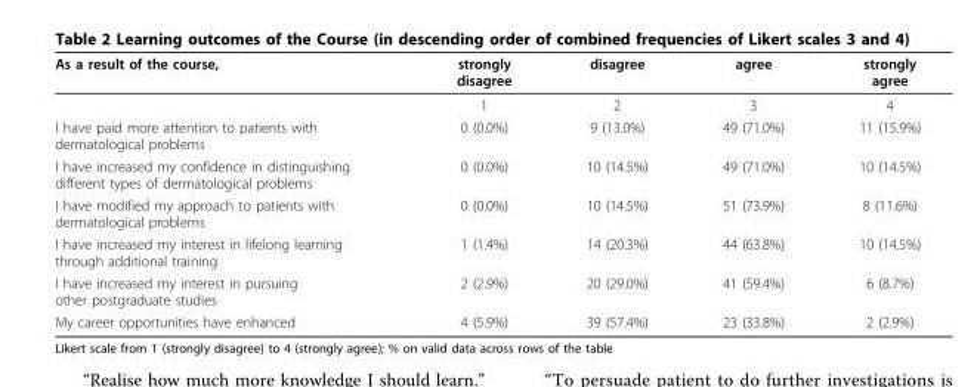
<table><thead><tr><td>As a result of the course,</td><td>strongly disagree</td><td>disagree</td><td>agree</td><td>strongly agree</td></tr></thead><tbody><tr><td></td><td>1</td><td>2</td><td>3</td><td>4</td></tr><tr><td>I have paid more attention to patients with dermatological problems</td><td>0 (0.0%)</td><td>9 (13.0%)</td><td>49 (71.0%)</td><td>11 (15.9%)</td></tr><tr><td>I have increased my confidence in distinguishing different types of dermatological problems</td><td>0 (0.0%)</td><td>10 (14.5%)</td><td>49 (71.0%)</td><td>10 (14.5%)</td></tr><tr><td>I have modified my approach to patients with dermatological problems</td><td>0 (0.0%)</td><td>10 (14.5%)</td><td>51 (73.9%)</td><td>8 (11.6%)</td></tr><tr><td>I have increased my interest in lifelong learning through additional training</td><td>1 (1.4%)</td><td>14 (20.3%)</td><td>44 (63.8%)</td><td>10 (14.5%)</td></tr><tr><td>I have increased my interest in pursuing other postgraduate studies</td><td>2 (2.9%)</td><td>20 (29.0%)</td><td>41 (59.4%)</td><td>6 (8.7%)</td></tr><tr><td>My career opportunities have enhanced</td><td>4 (5.9%)</td><td>39 (57.4%)</td><td>23 (33.8%)</td><td>2 (2.9%)</td></tr></tbody></table>